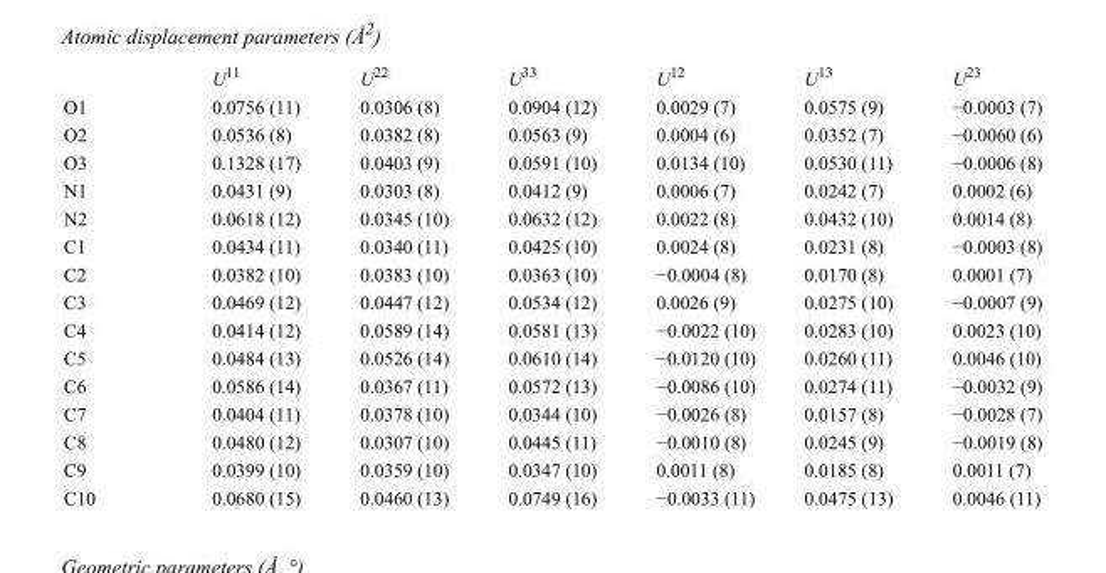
<table><thead><tr><td></td><td>U<sup>11</sup></td><td>U<sup>22</sup></td><td>U<sup>33</sup></td><td>U<sup>12</sup></td><td>U<sup>13</sup></td><td>U<sup>23</sup></td></tr></thead><tbody><tr><td>O1</td><td>0.0756 (11)</td><td>0.0306 (8)</td><td>0.0904 (12)</td><td>0.0029 (7)</td><td>0.0575 (9)</td><td>−0.0003 (7)</td></tr><tr><td>O2</td><td>0.0536 (8)</td><td>0.0382 (8)</td><td>0.0563 (9)</td><td>0.0004 (6)</td><td>0.0352 (7)</td><td>−0.0060 (6)</td></tr><tr><td>O3</td><td>0.1328 (17)</td><td>0.0403 (9)</td><td>0.0591 (10)</td><td>0.0134 (10)</td><td>0.0530 (11)</td><td>−0.0006 (8)</td></tr><tr><td>N1</td><td>0.0431 (9)</td><td>0.0303 (8)</td><td>0.0412 (9)</td><td>0.0006 (7)</td><td>0.0242 (7)</td><td>0.0002 (6)</td></tr><tr><td>N2</td><td>0.0618 (12)</td><td>0.0345 (10)</td><td>0.0632 (12)</td><td>0.0022 (8)</td><td>0.0432 (10)</td><td>0.0014 (8)</td></tr><tr><td>C1</td><td>0.0434 (11)</td><td>0.0340 (11)</td><td>0.0425 (10)</td><td>0.0024 (8)</td><td>0.0231 (8)</td><td>−0.0003 (8)</td></tr><tr><td>C2</td><td>0.0382 (10)</td><td>0.0383 (10)</td><td>0.0363 (10)</td><td>−0.0004 (8)</td><td>0.0170 (8)</td><td>0.0001 (7)</td></tr><tr><td>C3</td><td>0.0469 (12)</td><td>0.0447 (12)</td><td>0.0534 (12)</td><td>0.0026 (9)</td><td>0.0275 (10)</td><td>−0.0007 (9)</td></tr><tr><td>C4</td><td>0.0414 (12)</td><td>0.0589 (14)</td><td>0.0581 (13)</td><td>−0.0022 (10)</td><td>0.0283 (10)</td><td>0.0023 (10)</td></tr><tr><td>C5</td><td>0.0484 (13)</td><td>0.0526 (14)</td><td>0.0610 (14)</td><td>−0.0120 (10)</td><td>0.0260 (11)</td><td>0.0046 (10)</td></tr><tr><td>C6</td><td>0.0586 (14)</td><td>0.0367 (11)</td><td>0.0572 (13)</td><td>−0.0086 (10)</td><td>0.0274 (11)</td><td>−0.0032 (9)</td></tr><tr><td>C7</td><td>0.0404 (11)</td><td>0.0378 (10)</td><td>0.0344 (10)</td><td>−0.0026 (8)</td><td>0.0157 (8)</td><td>−0.0028 (7)</td></tr><tr><td>C8</td><td>0.0480 (12)</td><td>0.0307 (10)</td><td>0.0445 (11)</td><td>−0.0010 (8)</td><td>0.0245 (9)</td><td>−0.0019 (8)</td></tr><tr><td>C9</td><td>0.0399 (10)</td><td>0.0359 (10)</td><td>0.0347 (10)</td><td>0.0011 (8)</td><td>0.0185 (8)</td><td>0.0011 (7)</td></tr><tr><td>C10</td><td>0.0680 (15)</td><td>0.0460 (13)</td><td>0.0749 (16)</td><td>−0.0033 (11)</td><td>0.0475 (13)</td><td>0.0046 (11)</td></tr></tbody></table>